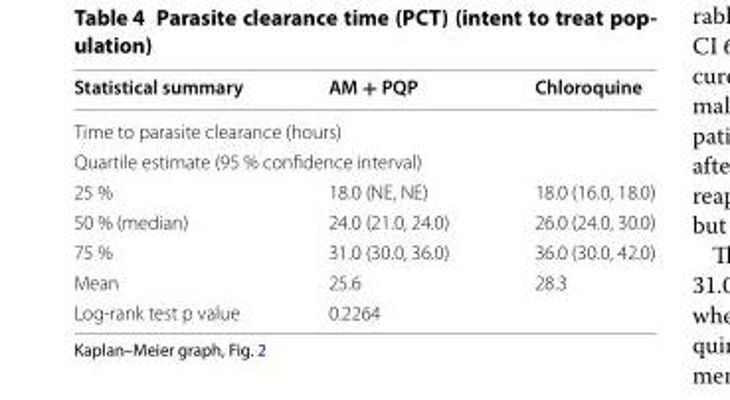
<table><thead><tr><td>Statistical summary</td><td>AM + PQP</td><td>Chloroquine</td></tr></thead><tbody><tr><td colspan="3">Time to parasite clearance (hours)</td></tr><tr><td colspan="3">Quartile estimate (95 % confidence interval)</td></tr><tr><td>25 %</td><td>18.0 (NE, NE)</td><td>18.0 (16.0, 18.0)</td></tr><tr><td>50 % (median)</td><td>24.0 (21.0, 24.0)</td><td>26.0 (24.0, 30.0)</td></tr><tr><td>75 %</td><td>31.0 (30.0, 36.0)</td><td>36.0 (30.0, 42.0)</td></tr><tr><td>Mean</td><td>25.6</td><td>28.3</td></tr><tr><td>Log-rank test p value</td><td colspan="2">0.2264</td></tr></tbody></table>